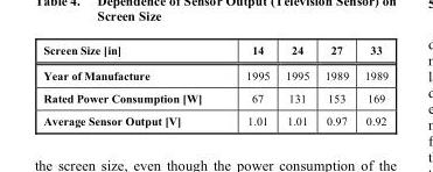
<table><thead><tr><td>Screen Size [in]</td><td>14</td><td>24</td><td>27</td><td>33</td></tr></thead><tbody><tr><td>Year of Manufacture</td><td>1995</td><td>1995</td><td>1989</td><td>1989</td></tr><tr><td>Rated Power Consumption [W]</td><td>67</td><td>131</td><td>153</td><td>169</td></tr><tr><td>Average Sensor Output [V]</td><td>1.01</td><td>1.01</td><td>0.97</td><td>0.92</td></tr></tbody></table>